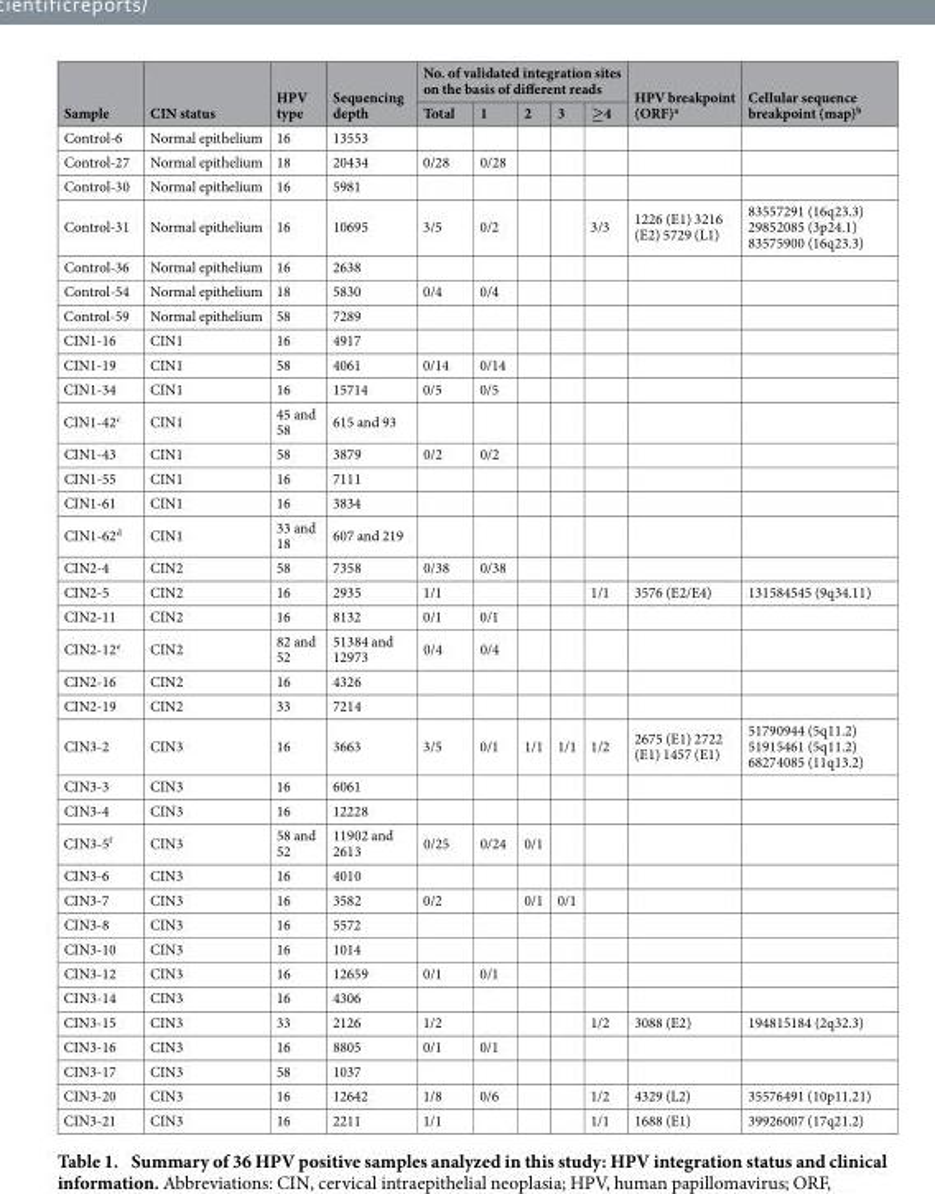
<table><thead><tr><td rowspan="2">Sample</td><td rowspan="2">CIN status</td><td rowspan="2">HPV type</td><td rowspan="2">Sequencing depth</td><td colspan="5">No. of validated integration sites on the basis of different reads</td><td rowspan="2">HPV breakpoint (ORF)<sup>a</sup></td><td rowspan="2">Cellular sequence breakpoint (map)<sup>b</sup></td></tr><tr><td>Total</td><td>1</td><td>2</td><td>3</td><td>≥4</td></tr></thead><tbody><tr><td>Control-6</td><td>Normal epithelium</td><td>16</td><td>13553</td><td></td><td></td><td></td><td></td><td></td><td></td><td></td></tr><tr><td>Control-27</td><td>Normal epithelium</td><td>18</td><td>20434</td><td>0/28</td><td>0/28</td><td></td><td></td><td></td><td></td><td></td></tr><tr><td>Control-30</td><td>Normal epithelium</td><td>16</td><td>5981</td><td></td><td></td><td></td><td></td><td></td><td></td><td></td></tr><tr><td>Control-31</td><td>Normal epithelium</td><td>16</td><td>10695</td><td>3/5</td><td>0/2</td><td></td><td></td><td>3/3</td><td>1226 (E1) 3216 (E2) 5729 (L1)</td><td>83557291 (16q23.3) 29852085 (3p24.1) 83575900 (16q23.3)</td></tr><tr><td>Control-36</td><td>Normal epithelium</td><td>16</td><td>2638</td><td></td><td></td><td></td><td></td><td></td><td></td><td></td></tr><tr><td>Control-54</td><td>Normal epithelium</td><td>18</td><td>5830</td><td>0/4</td><td>0/4</td><td></td><td></td><td></td><td></td><td></td></tr><tr><td>Control-59</td><td>Normal epithelium</td><td>58</td><td>7289</td><td></td><td></td><td></td><td></td><td></td><td></td><td></td></tr><tr><td>CIN1-16</td><td>CIN1</td><td>16</td><td>4917</td><td></td><td></td><td></td><td></td><td></td><td></td><td></td></tr><tr><td>CIN1-19</td><td>CIN1</td><td>58</td><td>4061</td><td>0/14</td><td>0/14</td><td></td><td></td><td></td><td></td><td></td></tr><tr><td>CIN1-34</td><td>CIN1</td><td>16</td><td>15714</td><td>0/5</td><td>0/5</td><td></td><td></td><td></td><td></td><td></td></tr><tr><td>CIN1-42<sup>c</sup></td><td>CIN1</td><td>45 and 58</td><td>615 and 93</td><td></td><td></td><td></td><td></td><td></td><td></td><td></td></tr><tr><td>CIN1-43</td><td>CIN1</td><td>58</td><td>3879</td><td>0/2</td><td>0/2</td><td></td><td></td><td></td><td></td><td></td></tr><tr><td>CIN1-55</td><td>CIN1</td><td>16</td><td>7111</td><td></td><td></td><td></td><td></td><td></td><td></td><td></td></tr><tr><td>CIN1-61</td><td>CIN1</td><td>16</td><td>3834</td><td></td><td></td><td></td><td></td><td></td><td></td><td></td></tr><tr><td>CIN1-62<sup>d</sup></td><td>CIN1</td><td>33 and 18</td><td>607 and 219</td><td></td><td></td><td></td><td></td><td></td><td></td><td></td></tr><tr><td>CIN2-4</td><td>CIN2</td><td>58</td><td>7358</td><td>0/38</td><td>0/38</td><td></td><td></td><td></td><td></td><td></td></tr><tr><td>CIN2-5</td><td>CIN2</td><td>16</td><td>2935</td><td>1/1</td><td></td><td></td><td></td><td>1/1</td><td>3576 (E2/E4)</td><td>131584545 (9q34.11)</td></tr><tr><td>CIN2-11</td><td>CIN2</td><td>16</td><td>8132</td><td>0/1</td><td>0/1</td><td></td><td></td><td></td><td></td><td></td></tr><tr><td>CIN2-12<sup>e</sup></td><td>CIN2</td><td>82 and 52</td><td>51384 and 12973</td><td>0/4</td><td>0/4</td><td></td><td></td><td></td><td></td><td></td></tr><tr><td>CIN2-16</td><td>CIN2</td><td>16</td><td>4326</td><td></td><td></td><td></td><td></td><td></td><td></td><td></td></tr><tr><td>CIN2-19</td><td>CIN2</td><td>33</td><td>7214</td><td></td><td></td><td></td><td></td><td></td><td></td><td></td></tr><tr><td>CIN3-2</td><td>CIN3</td><td>16</td><td>3663</td><td>3/5</td><td>0/1</td><td>1/1</td><td>1/1</td><td>1/2</td><td>2675 (E1) 2722 (E1) 1457 (E1)</td><td>51790944 (5q11.2) 51915461 (5q11.2) 68274085 (11q13.2)</td></tr><tr><td>CIN3-3</td><td>CIN3</td><td>16</td><td>6061</td><td></td><td></td><td></td><td></td><td></td><td></td><td></td></tr><tr><td>CIN3-4</td><td>CIN3</td><td>16</td><td>12228</td><td></td><td></td><td></td><td></td><td></td><td></td><td></td></tr><tr><td>CIN3-5<sup>f</sup></td><td>CIN3</td><td>58 and 52</td><td>11902 and 2613</td><td>0/25</td><td>0/24</td><td>0/1</td><td></td><td></td><td></td><td></td></tr><tr><td>CIN3-6</td><td>CIN3</td><td>16</td><td>4010</td><td></td><td></td><td></td><td></td><td></td><td></td><td></td></tr><tr><td>CIN3-7</td><td>CIN3</td><td>16</td><td>3582</td><td>0/2</td><td></td><td>0/1</td><td>0/1</td><td></td><td></td><td></td></tr><tr><td>CIN3-8</td><td>CIN3</td><td>16</td><td>5572</td><td></td><td></td><td></td><td></td><td></td><td></td><td></td></tr><tr><td>CIN3-10</td><td>CIN3</td><td>16</td><td>1014</td><td></td><td></td><td></td><td></td><td></td><td></td><td></td></tr><tr><td>CIN3-12</td><td>CIN3</td><td>16</td><td>12659</td><td>0/1</td><td>0/1</td><td></td><td></td><td></td><td></td><td></td></tr><tr><td>CIN3-14</td><td>CIN3</td><td>16</td><td>4306</td><td></td><td></td><td></td><td></td><td></td><td></td><td></td></tr><tr><td>CIN3-15</td><td>CIN3</td><td>33</td><td>2126</td><td>1/2</td><td></td><td></td><td></td><td>1/2</td><td>3088 (E2)</td><td>194815184 (2q32.3)</td></tr><tr><td>CIN3-16</td><td>CIN3</td><td>16</td><td>8805</td><td>0/1</td><td>0/1</td><td></td><td></td><td></td><td></td><td></td></tr><tr><td>CIN3-17</td><td>CIN3</td><td>58</td><td>1037</td><td></td><td></td><td></td><td></td><td></td><td></td><td></td></tr><tr><td>CIN3-20</td><td>CIN3</td><td>16</td><td>12642</td><td>1/8</td><td>0/6</td><td></td><td></td><td>1/2</td><td>4329 (L2)</td><td>35576491 (10p11.21)</td></tr><tr><td>CIN3-21</td><td>CIN3</td><td>16</td><td>2211</td><td>1/1</td><td></td><td></td><td></td><td>1/1</td><td>1688 (E1)</td><td>39926007 (17q21.2)</td></tr></tbody></table>